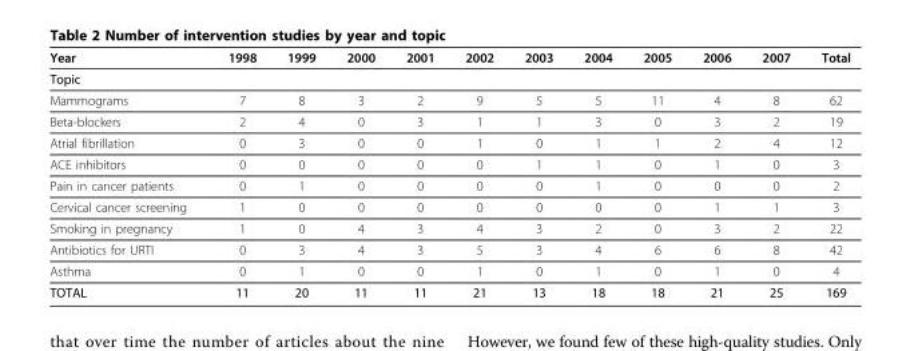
<table><thead><tr><td>Year</td><td>1998</td><td>1999</td><td>2000</td><td>2001</td><td>2002</td><td>2003</td><td>2004</td><td>2005</td><td>2006</td><td>2007</td><td>Total</td></tr></thead><tbody><tr><td colspan="12">Topic</td></tr><tr><td>Mammograms</td><td>7</td><td>8</td><td>3</td><td>2</td><td>9</td><td>5</td><td>5</td><td>11</td><td>4</td><td>8</td><td>62</td></tr><tr><td>Beta-blockers</td><td>2</td><td>4</td><td>0</td><td>3</td><td>1</td><td>1</td><td>3</td><td>0</td><td>3</td><td>2</td><td>19</td></tr><tr><td>Atrial fibrillation</td><td>0</td><td>3</td><td>0</td><td>0</td><td>1</td><td>0</td><td>1</td><td>1</td><td>2</td><td>4</td><td>12</td></tr><tr><td>ACE inhibitors</td><td>0</td><td>0</td><td>0</td><td>0</td><td>0</td><td>1</td><td>1</td><td>0</td><td>1</td><td>0</td><td>3</td></tr><tr><td>Pain in cancer patients</td><td>0</td><td>1</td><td>0</td><td>0</td><td>0</td><td>0</td><td>1</td><td>0</td><td>0</td><td>0</td><td>2</td></tr><tr><td>Cervical cancer screening</td><td>1</td><td>0</td><td>0</td><td>0</td><td>0</td><td>0</td><td>0</td><td>0</td><td>1</td><td>1</td><td>3</td></tr><tr><td>Smoking in pregnancy</td><td>1</td><td>0</td><td>4</td><td>3</td><td>4</td><td>3</td><td>2</td><td>0</td><td>3</td><td>2</td><td>22</td></tr><tr><td>Antibiotics for URTI</td><td>0</td><td>3</td><td>4</td><td>3</td><td>5</td><td>3</td><td>4</td><td>6</td><td>6</td><td>8</td><td>42</td></tr><tr><td>Asthma</td><td>0</td><td>1</td><td>0</td><td>0</td><td>1</td><td>0</td><td>1</td><td>0</td><td>1</td><td>0</td><td>4</td></tr><tr><td>TOTAL</td><td>11</td><td>20</td><td>11</td><td>11</td><td>21</td><td>13</td><td>18</td><td>18</td><td>21</td><td>25</td><td>169</td></tr></tbody></table>